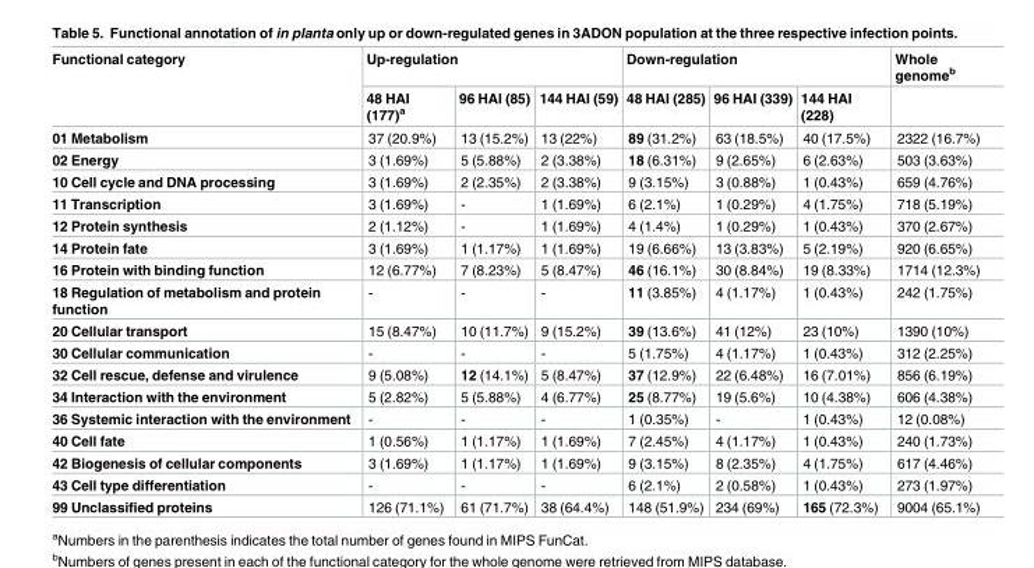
<table><thead><tr><td rowspan="2">Functional category</td><td colspan="3">Up-regulation</td><td colspan="3">Down-regulation</td><td rowspan="2">Whole genome<sup>b</sup></td></tr><tr><td>48 HAI (177)<sup>a</sup></td><td>96 HAI (85)</td><td>144 HAI (59)</td><td>48 HAI (285)</td><td>96 HAI (339)</td><td>144 HAI (228)</td></tr></thead><tbody><tr><td>01 Metabolism</td><td>37 (20.9%)</td><td>13 (15.2%)</td><td>13 (22%)</td><td>89 (31.2%)</td><td>63 (18.5%)</td><td>40 (17.5%)</td><td>2322 (16.7%)</td></tr><tr><td>02 Energy</td><td>3 (1.69%)</td><td>5 (5.88%)</td><td>2 (3.38%)</td><td>18 (6.31%)</td><td>9 (2.65%)</td><td>6 (2.63%)</td><td>503 (3.63%)</td></tr><tr><td>10 Cell cycle and DNA processing</td><td>3 (1.69%)</td><td>2 (2.35%)</td><td>2 (3.38%)</td><td>9 (3.15%)</td><td>3 (0.88%)</td><td>1 (0.43%)</td><td>659 (4.76%)</td></tr><tr><td>11 Transcription</td><td>3 (1.69%)</td><td>-</td><td>1 (1.69%)</td><td>6 (2.1%)</td><td>1 (0.29%)</td><td>4 (1.75%)</td><td>718 (5.19%)</td></tr><tr><td>12 Protein synthesis</td><td>2 (1.12%)</td><td>-</td><td>1 (1.69%)</td><td>4 (1.4%)</td><td>1 (0.29%)</td><td>1 (0.43%)</td><td>370 (2.67%)</td></tr><tr><td>14 Protein fate</td><td>3 (1.69%)</td><td>1 (1.17%)</td><td>1 (1.69%)</td><td>19 (6.66%)</td><td>13 (3.83%)</td><td>5 (2.19%)</td><td>920 (6.65%)</td></tr><tr><td>16 Protein with binding function</td><td>12 (6.77%)</td><td>7 (8.23%)</td><td>5 (8.47%)</td><td>46 (16.1%)</td><td>30 (8.84%)</td><td>19 (8.33%)</td><td>1714 (12.3%)</td></tr><tr><td>18 Regulation of metabolism and protein function</td><td>-</td><td>-</td><td>-</td><td>11 (3.85%)</td><td>4 (1.17%)</td><td>1 (0.43%)</td><td>242 (1.75%)</td></tr><tr><td>20 Cellular transport</td><td>15 (8.47%)</td><td>10 (11.7%)</td><td>9 (15.2%)</td><td>39 (13.6%)</td><td>41 (12%)</td><td>23 (10%)</td><td>1390 (10%)</td></tr><tr><td>30 Cellular communication</td><td>-</td><td>-</td><td>-</td><td>5 (1.75%)</td><td>4 (1.17%)</td><td>1 (0.43%)</td><td>312 (2.25%)</td></tr><tr><td>32 Cell rescue, defense and virulence</td><td>9 (5.08%)</td><td>12 (14.1%)</td><td>5 (8.47%)</td><td>37 (12.9%)</td><td>22 (6.48%)</td><td>16 (7.01%)</td><td>856 (6.19%)</td></tr><tr><td>34 Interaction with the environment</td><td>5 (2.82%)</td><td>5 (5.88%)</td><td>4 (6.77%)</td><td>25 (8.77%)</td><td>19 (5.6%)</td><td>10 (4.38%)</td><td>606 (4.38%)</td></tr><tr><td>36 Systemic interaction with the environment</td><td>-</td><td>-</td><td>-</td><td>1 (0.35%)</td><td>-</td><td>1 (0.43%)</td><td>12 (0.08%)</td></tr><tr><td>40 Cell fate</td><td>1 (0.56%)</td><td>1 (1.17%)</td><td>1 (1.69%)</td><td>7 (2.45%)</td><td>4 (1.17%)</td><td>1 (0.43%)</td><td>240 (1.73%)</td></tr><tr><td>42 Biogenesis of cellular components</td><td>3 (1.69%)</td><td>1 (1.17%)</td><td>1 (1.69%)</td><td>9 (3.15%)</td><td>8 (2.35%)</td><td>4 (1.75%)</td><td>617 (4.46%)</td></tr><tr><td>43 Cell type differentiation</td><td>-</td><td>-</td><td>-</td><td>6 (2.1%)</td><td>2 (0.58%)</td><td>1 (0.43%)</td><td>273 (1.97%)</td></tr><tr><td>99 Unclassified proteins</td><td>126 (71.1%)</td><td>61 (71.7%)</td><td>38 (64.4%)</td><td>148 (51.9%)</td><td>234 (69%)</td><td>165 (72.3%)</td><td>9004 (65.1%)</td></tr></tbody></table>